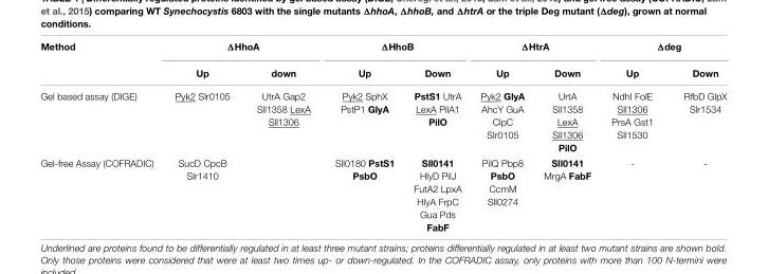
<table><thead><tr><td rowspan="2">Method</td><td colspan="2">ΔHhoA</td><td colspan="2">ΔHhoB</td><td colspan="2">ΔHtrA</td><td colspan="2">Δdeg</td></tr><tr><td>Up</td><td>down</td><td>Up</td><td>Down</td><td>Up</td><td>Down</td><td>Up</td><td>Down</td></tr></thead><tbody><tr><td>Gel based assay (DIGE)</td><td>Pyk2 Slr0105</td><td>UtrA Gap2 Sll1358 LexA Sll1306</td><td>Pyk2 SphX PstP1 GlyA</td><td>PstS1 UtrA LexA PilA1 PilO</td><td>Pyk2 GlyA AhcY GuA ClpC Slr0105</td><td>UrtA Sll1358 LexA Sll1306 PilO</td><td>NdhI FolE Sll1306 PrsA Gst1 Sll1530</td><td>RfbD GlpX Slr1534</td></tr><tr><td>Gel-free Assay (COFRADIC)</td><td>SucD CpcB Slr1410</td><td></td><td>Sll0180 PstS1 PsbO</td><td>Sll0141 HlyD PilJ FutA2 LpxA HlyA FrpC Gua Pds FabF</td><td>PilQ Pbp8 PsbO CcmM Sll0274</td><td>Sll0141 MrgA FabF</td><td>-</td><td>-</td></tr></tbody></table>